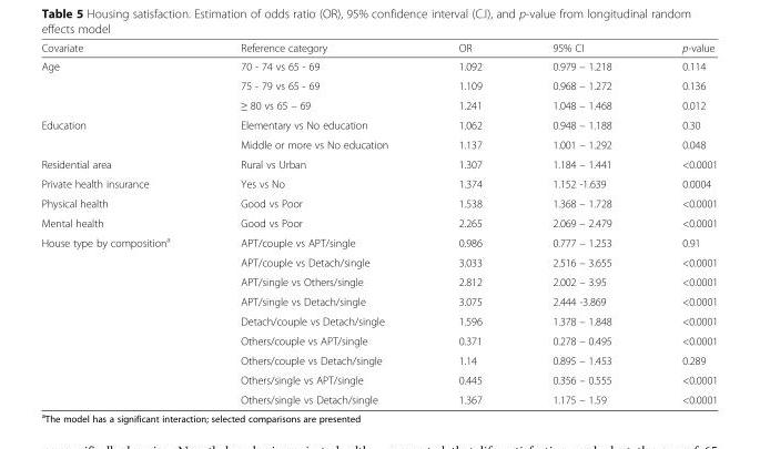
<table><thead><tr><td>Covariate</td><td>Reference category</td><td>OR</td><td>95% CI</td><td>p-value</td></tr></thead><tbody><tr><td rowspan="3">Age</td><td>70 - 74 vs 65 - 69</td><td>1.092</td><td>0.979 – 1.218</td><td>0.114</td></tr><tr><td>75 - 79 vs 65 - 69</td><td>1.109</td><td>0.968 – 1.272</td><td>0.136</td></tr><tr><td>≥ 80 vs 65 – 69</td><td>1.241</td><td>1.048 – 1.468</td><td>0.012</td></tr><tr><td rowspan="2">Education</td><td>Elementary vs No education</td><td>1.062</td><td>0.948 – 1.188</td><td>0.30</td></tr><tr><td>Middle or more vs No education</td><td>1.137</td><td>1.001 – 1.292</td><td>0.048</td></tr><tr><td>Residential area</td><td>Rural vs Urban</td><td>1.307</td><td>1.184 – 1.441</td><td>&lt;0.0001</td></tr><tr><td>Private health insurance</td><td>Yes vs No</td><td>1.374</td><td>1.152 -1.639</td><td>0.0004</td></tr><tr><td>Physical health</td><td>Good vs Poor</td><td>1.538</td><td>1.368 – 1.728</td><td>&lt;0.0001</td></tr><tr><td>Mental health</td><td>Good vs Poor</td><td>2.265</td><td>2.069 – 2.479</td><td>&lt;0.0001</td></tr><tr><td rowspan="9">House type by composition<sup>a</sup></td><td>APT/couple vs APT/single</td><td>0.986</td><td>0.777 – 1.253</td><td>0.91</td></tr><tr><td>APT/couple vs Detach/single</td><td>3.033</td><td>2.516 – 3.655</td><td>&lt;0.0001</td></tr><tr><td>APT/single vs Others/single</td><td>2.812</td><td>2.002 – 3.95</td><td>&lt;0.0001</td></tr><tr><td>APT/single vs Detach/single</td><td>3.075</td><td>2.444 -3.869</td><td>&lt;0.0001</td></tr><tr><td>Detach/couple vs Detach/single</td><td>1.596</td><td>1.378 – 1.848</td><td>&lt;0.0001</td></tr><tr><td>Others/couple vs APT/single</td><td>0.371</td><td>0.278 – 0.495</td><td>&lt;0.0001</td></tr><tr><td>Others/couple vs Detach/single</td><td>1.14</td><td>0.895 – 1.453</td><td>0.289</td></tr><tr><td>Others/single vs APT/single</td><td>0.445</td><td>0.356 – 0.555</td><td>&lt;0.0001</td></tr><tr><td>Others/single vs Detach/single</td><td>1.367</td><td>1.175 – 1.59</td><td>&lt;0.0001</td></tr></tbody></table>